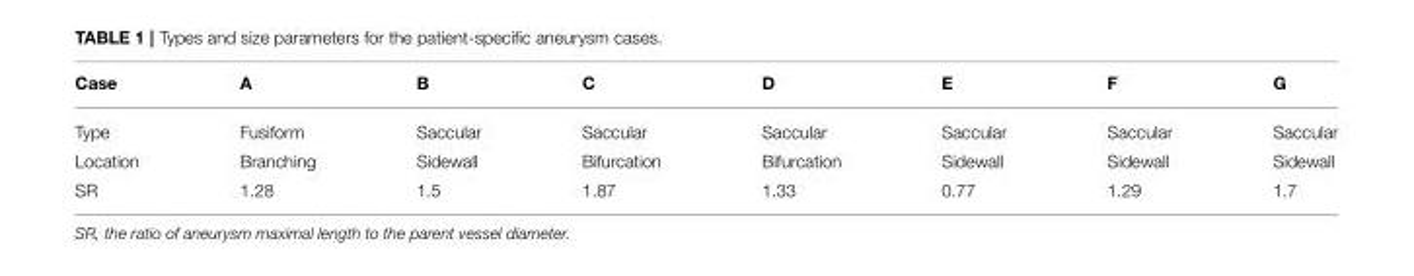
<table><thead><tr><td>Case</td><td>A</td><td>B</td><td>C</td><td>D</td><td>E</td><td>F</td><td>G</td></tr></thead><tbody><tr><td>Type</td><td>Fusiform</td><td>Saccular</td><td>Saccular</td><td>Saccular</td><td>Saccular</td><td>Saccular</td><td>Saccular</td></tr><tr><td>Location</td><td>Branching</td><td>Sidewall</td><td>Bifurcation</td><td>Bifurcation</td><td>Sidewall</td><td>Sidewall</td><td>Sidewall</td></tr><tr><td>SR</td><td>1.28</td><td>1.5</td><td>1.87</td><td>1.33</td><td>0.77</td><td>1.29</td><td>1.7</td></tr></tbody></table>